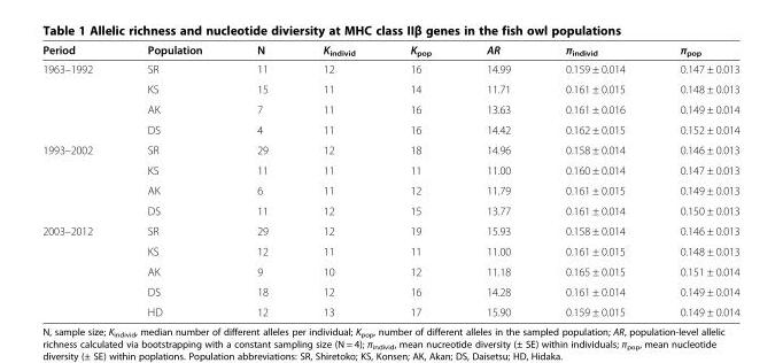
<table><thead><tr><td>Period</td><td>Population</td><td>N</td><td>K<sub>individ</sub></td><td>K<sub>pop</sub></td><td>AR</td><td>π<sub>individ</sub></td><td>π<sub>pop</sub></td></tr></thead><tbody><tr><td rowspan="4">1963–1992</td><td>SR</td><td>11</td><td>12</td><td>16</td><td>14.99</td><td>0.159 ± 0.014</td><td>0.147 ± 0.013</td></tr><tr><td>KS</td><td>15</td><td>11</td><td>14</td><td>11.71</td><td>0.161 ± 0.015</td><td>0.148 ± 0.013</td></tr><tr><td>AK</td><td>7</td><td>11</td><td>16</td><td>13.63</td><td>0.161 ± 0.016</td><td>0.149 ± 0.014</td></tr><tr><td>DS</td><td>4</td><td>11</td><td>16</td><td>14.42</td><td>0.162 ± 0.015</td><td>0.152 ± 0.014</td></tr><tr><td rowspan="4">1993–2002</td><td>SR</td><td>29</td><td>12</td><td>18</td><td>14.96</td><td>0.158 ± 0.014</td><td>0.146 ± 0.013</td></tr><tr><td>KS</td><td>11</td><td>11</td><td>11</td><td>11.00</td><td>0.160 ± 0.014</td><td>0.147 ± 0.013</td></tr><tr><td>AK</td><td>6</td><td>11</td><td>12</td><td>11.79</td><td>0.161 ± 0.015</td><td>0.149 ± 0.013</td></tr><tr><td>DS</td><td>11</td><td>12</td><td>15</td><td>13.77</td><td>0.161 ± 0.014</td><td>0.150 ± 0.013</td></tr><tr><td rowspan="5">2003–2012</td><td>SR</td><td>29</td><td>12</td><td>19</td><td>15.93</td><td>0.158 ± 0.014</td><td>0.146 ± 0.013</td></tr><tr><td>KS</td><td>12</td><td>11</td><td>11</td><td>11.00</td><td>0.161 ± 0.015</td><td>0.148 ± 0.013</td></tr><tr><td>AK</td><td>9</td><td>10</td><td>12</td><td>11.18</td><td>0.165 ± 0.015</td><td>0.151 ± 0.014</td></tr><tr><td>DS</td><td>18</td><td>12</td><td>16</td><td>14.28</td><td>0.161 ± 0.014</td><td>0.149 ± 0.014</td></tr><tr><td>HD</td><td>12</td><td>13</td><td>17</td><td>15.90</td><td>0.159 ± 0.015</td><td>0.149 ± 0.014</td></tr></tbody></table>